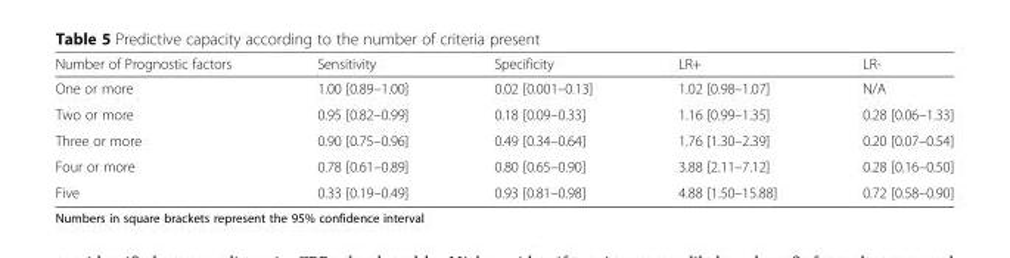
<table><thead><tr><td>Number of Prognostic factors</td><td>Sensitivity</td><td>Specificity</td><td>LR+</td><td>LR-</td></tr></thead><tbody><tr><td>One or more</td><td>1.00 [0.89–1.00]</td><td>0.02 [0.001–0.13]</td><td>1.02 [0.98–1.07]</td><td>N/A</td></tr><tr><td>Two or more</td><td>0.95 [0.82–0.99]</td><td>0.18 [0.09–0.33]</td><td>1.16 [0.99–1.35]</td><td>0.28 [0.06–1.33]</td></tr><tr><td>Three or more</td><td>0.90 [0.75–0.96]</td><td>0.49 [0.34–0.64]</td><td>1.76 [1.30–2.39]</td><td>0.20 [0.07–0.54]</td></tr><tr><td>Four or more</td><td>0.78 [0.61–0.89]</td><td>0.80 [0.65–0.90]</td><td>3.88 [2.11–7.12]</td><td>0.28 [0.16–0.50]</td></tr><tr><td>Five</td><td>0.33 [0.19–0.49]</td><td>0.93 [0.81–0.98]</td><td>4.88 [1.50–15.88]</td><td>0.72 [0.58–0.90]</td></tr></tbody></table>